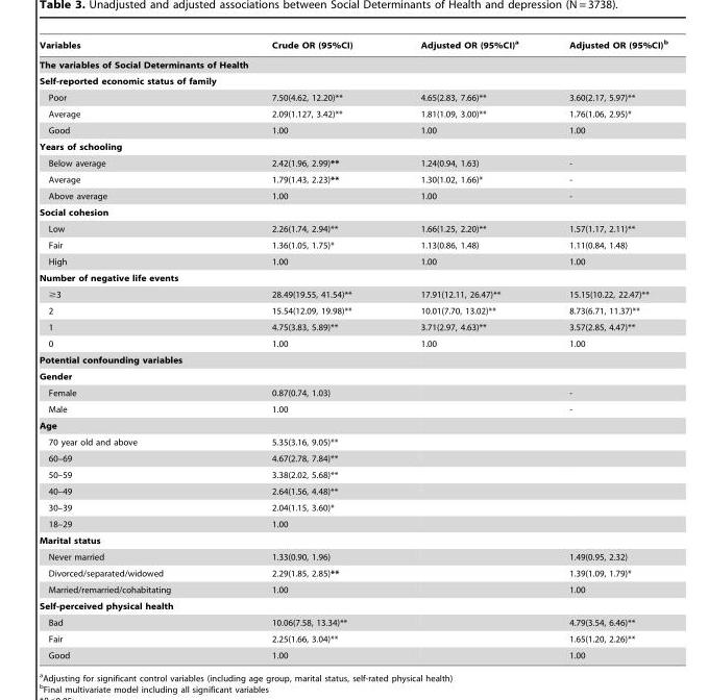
<table><thead><tr><td>Variables</td><td>Crude OR (95%CI)</td><td>Adjusted OR (95%CI)<sup>a</sup></td><td>Adjusted OR (95%CI)<sup>b</sup></td></tr></thead><tbody><tr><td colspan="4">The variables of Social Determinants of Health</td></tr><tr><td colspan="4">Self-reported economic status of family</td></tr><tr><td>Poor</td><td>7.50(4.62, 12.20)**</td><td>4.65(2.83, 7.66)**</td><td>3.60(2.17, 5.97)**</td></tr><tr><td>Average</td><td>2.09(1.127, 3.42)**</td><td>1.81(1.09, 3.00)**</td><td>1.76(1.06, 2.95)*</td></tr><tr><td>Good</td><td>1.00</td><td>1.00</td><td>1.00</td></tr><tr><td colspan="4">Years of schooling</td></tr><tr><td>Below average</td><td>2.42(1.96, 2.99)**</td><td>1.24(0.94, 1.63)</td><td>-</td></tr><tr><td>Average</td><td>1.79(1.43, 2.23)**</td><td>1.30(1.02, 1.66)*</td><td>-</td></tr><tr><td>Above average</td><td>1.00</td><td>1.00</td><td>-</td></tr><tr><td colspan="4">Social cohesion</td></tr><tr><td>Low</td><td>2.26(1.74, 2.94)**</td><td>1.66(1.25, 2.20)**</td><td>1.57(1.17, 2.11)**</td></tr><tr><td>Fair</td><td>1.36(1.05, 1.75)*</td><td>1.13(0.86, 1.48)</td><td>1.11(0.84, 1.48)</td></tr><tr><td>High</td><td>1.00</td><td>1.00</td><td>1.00</td></tr><tr><td colspan="4">Number of negative life events</td></tr><tr><td>≥3</td><td>28.49(19.55, 41.54)**</td><td>17.91(12.11, 26.47)**</td><td>15.15(10.22, 22.47)**</td></tr><tr><td>2</td><td>15.54(12.09, 19.98)**</td><td>10.01(7.70, 13.02)**</td><td>8.73(6.71, 11.37)**</td></tr><tr><td>1</td><td>4.75(3.83, 5.89)**</td><td>3.71(2.97, 4.63)**</td><td>3.57(2.85, 4.47)**</td></tr><tr><td>0</td><td>1.00</td><td>1.00</td><td>1.00</td></tr><tr><td colspan="4">Potential confounding variables</td></tr><tr><td colspan="4">Gender</td></tr><tr><td>Female</td><td>0.87(0.74, 1.03)</td><td></td><td>-</td></tr><tr><td>Male</td><td>1.00</td><td></td><td>-</td></tr><tr><td colspan="4">Age</td></tr><tr><td>70 year old and above</td><td>5.35(3.16, 9.05)**</td><td></td><td></td></tr><tr><td>60–69</td><td>4.67(2.78, 7.84)**</td><td></td><td></td></tr><tr><td>50–59</td><td>3.38(2.02, 5.68)**</td><td></td><td></td></tr><tr><td>40–49</td><td>2.64(1.56, 4.48)**</td><td></td><td></td></tr><tr><td>30–39</td><td>2.04(1.15, 3.60)*</td><td></td><td></td></tr><tr><td>18–29</td><td>1.00</td><td></td><td></td></tr><tr><td colspan="4">Marital status</td></tr><tr><td>Never married</td><td>1.33(0.90, 1.96)</td><td></td><td>1.49(0.95, 2.32)</td></tr><tr><td>Divorced/separated/widowed</td><td>2.29(1.85, 2.85)**</td><td></td><td>1.39(1.09, 1.79)*</td></tr><tr><td>Married/remarried/cohabitating</td><td>1.00</td><td></td><td>1.00</td></tr><tr><td colspan="4">Self-perceived physical health</td></tr><tr><td>Bad</td><td>10.06(7.58, 13.34)**</td><td></td><td>4.79(3.54, 6.46)**</td></tr><tr><td>Fair</td><td>2.25(1.66, 3.04)**</td><td></td><td>1.65(1.20, 2.26)**</td></tr><tr><td>Good</td><td>1.00</td><td></td><td>1.00</td></tr></tbody></table>